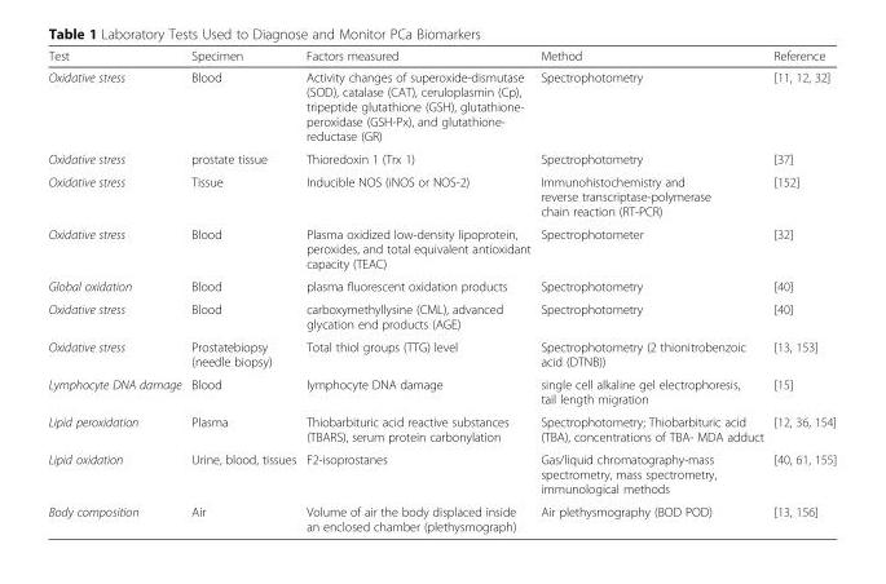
<table><thead><tr><td>Test</td><td>Specimen</td><td>Factors measured</td><td>Method</td><td>Reference</td></tr></thead><tbody><tr><td>Oxidative stress</td><td>Blood</td><td>Activity changes of superoxide-dismutase (SOD), catalase (CAT), ceruloplasmin (Cp), tripeptide glutathione (GSH), glutathione- peroxidase (GSH-Px), and glutathione- reductase (GR)</td><td>Spectrophotometry</td><td>[11, 12, 32]</td></tr><tr><td>Oxidative stress</td><td>prostate tissue</td><td>Thioredoxin 1 (Trx 1)</td><td>Spectrophotometry</td><td>[37]</td></tr><tr><td>Oxidative stress</td><td>Tissue</td><td>Inducible NOS (iNOS or NOS-2)</td><td>Immunohistochemistry and reverse transcriptase-polymerase chain reaction (RT-PCR)</td><td>[152]</td></tr><tr><td>Oxidative stress</td><td>Blood</td><td>Plasma oxidized low-density lipoprotein, peroxides, and total equivalent antioxidant capacity (TEAC)</td><td>Spectrophotometer</td><td>[32]</td></tr><tr><td>Global oxidation</td><td>Blood</td><td>plasma fluorescent oxidation products</td><td>Spectrophotometry</td><td>[40]</td></tr><tr><td>Oxidative stress</td><td>Blood</td><td>carboxymethyllysine (CML), advanced glycation end products (AGE)</td><td>Spectrophotometry</td><td>[40]</td></tr><tr><td>Oxidative stress</td><td>Prostatebiopsy (needle biopsy)</td><td>Total thiol groups (TTG) level</td><td>Spectrophotometry (2 thionitrobenzoic acid (DTNB))</td><td>[13, 153]</td></tr><tr><td>Lymphocyte DNA damage</td><td>Blood</td><td>lymphocyte DNA damage</td><td>single cell alkaline gel electrophoresis, tail length migration</td><td>[15]</td></tr><tr><td>Lipid peroxidation</td><td>Plasma</td><td>Thiobarbituric acid reactive substances (TBARS), serum protein carbonylation</td><td>Spectrophotometry; Thiobarbituric acid (TBA), concentrations of TBA- MDA adduct</td><td>[12, 36, 154]</td></tr><tr><td>Lipid oxidation</td><td>Urine, blood, tissues</td><td>F2-isoprostanes</td><td>Gas/liquid chromatography-mass spectrometry, mass spectrometry, immunological methods</td><td>[40, 61, 155]</td></tr><tr><td>Body composition</td><td>Air</td><td>Volume of air the body displaced inside an enclosed chamber (plethysmograph)</td><td>Air plethysmography (BOD POD)</td><td>[13, 156]</td></tr></tbody></table>